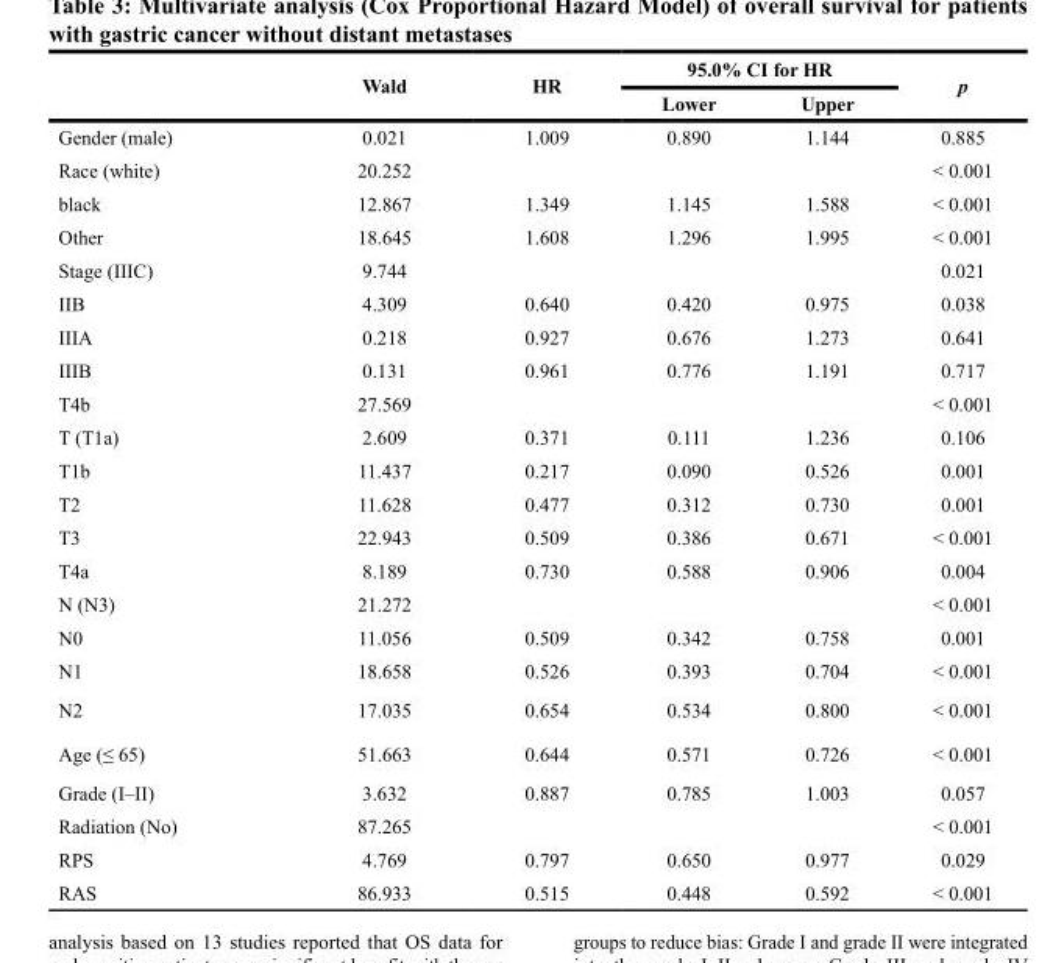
<table><thead><tr><td rowspan="2"></td><td rowspan="2">Wald</td><td rowspan="2">HR</td><td colspan="2">95.0% CI for HR</td><td rowspan="2">p</td></tr><tr><td>Lower</td><td>Upper</td></tr></thead><tbody><tr><td>Gender (male)</td><td>0.021</td><td>1.009</td><td>0.890</td><td>1.144</td><td>0.885</td></tr><tr><td>Race (white)</td><td>20.252</td><td></td><td></td><td></td><td>&lt; 0.001</td></tr><tr><td>black</td><td>12.867</td><td>1.349</td><td>1.145</td><td>1.588</td><td>&lt; 0.001</td></tr><tr><td>Other</td><td>18.645</td><td>1.608</td><td>1.296</td><td>1.995</td><td>&lt; 0.001</td></tr><tr><td>Stage (IIIC)</td><td>9.744</td><td></td><td></td><td></td><td>0.021</td></tr><tr><td>IIB</td><td>4.309</td><td>0.640</td><td>0.420</td><td>0.975</td><td>0.038</td></tr><tr><td>IIIA</td><td>0.218</td><td>0.927</td><td>0.676</td><td>1.273</td><td>0.641</td></tr><tr><td>IIIB</td><td>0.131</td><td>0.961</td><td>0.776</td><td>1.191</td><td>0.717</td></tr><tr><td>T4b</td><td>27.569</td><td></td><td></td><td></td><td>&lt; 0.001</td></tr><tr><td>T (T1a)</td><td>2.609</td><td>0.371</td><td>0.111</td><td>1.236</td><td>0.106</td></tr><tr><td>T1b</td><td>11.437</td><td>0.217</td><td>0.090</td><td>0.526</td><td>0.001</td></tr><tr><td>T2</td><td>11.628</td><td>0.477</td><td>0.312</td><td>0.730</td><td>0.001</td></tr><tr><td>T3</td><td>22.943</td><td>0.509</td><td>0.386</td><td>0.671</td><td>&lt; 0.001</td></tr><tr><td>T4a</td><td>8.189</td><td>0.730</td><td>0.588</td><td>0.906</td><td>0.004</td></tr><tr><td>N (N3)</td><td>21.272</td><td></td><td></td><td></td><td>&lt; 0.001</td></tr><tr><td>N0</td><td>11.056</td><td>0.509</td><td>0.342</td><td>0.758</td><td>0.001</td></tr><tr><td>N1</td><td>18.658</td><td>0.526</td><td>0.393</td><td>0.704</td><td>&lt; 0.001</td></tr><tr><td>N2</td><td>17.035</td><td>0.654</td><td>0.534</td><td>0.800</td><td>&lt; 0.001</td></tr><tr><td>Age (≤ 65)</td><td>51.663</td><td>0.644</td><td>0.571</td><td>0.726</td><td>&lt; 0.001</td></tr><tr><td>Grade (I–II)</td><td>3.632</td><td>0.887</td><td>0.785</td><td>1.003</td><td>0.057</td></tr><tr><td>Radiation (No)</td><td>87.265</td><td></td><td></td><td></td><td>&lt; 0.001</td></tr><tr><td>RPS</td><td>4.769</td><td>0.797</td><td>0.650</td><td>0.977</td><td>0.029</td></tr><tr><td>RAS</td><td>86.933</td><td>0.515</td><td>0.448</td><td>0.592</td><td>&lt; 0.001</td></tr></tbody></table>